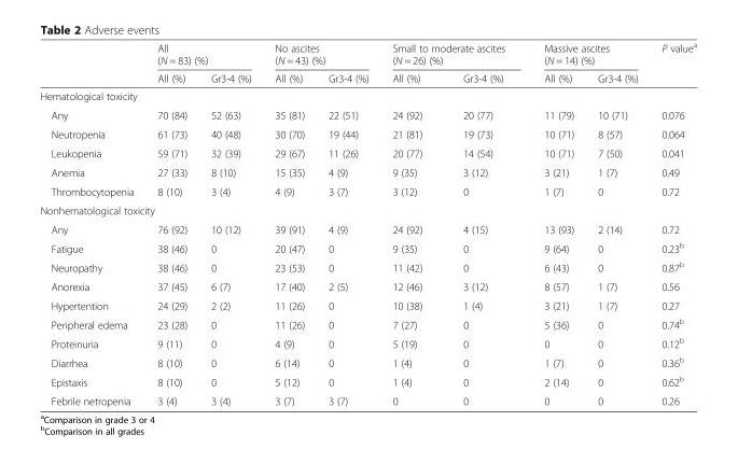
<table><thead><tr><td rowspan="2"></td><td colspan="2">All (N = 83) (%)</td><td colspan="2">No ascites (N = 43) (%)</td><td colspan="2">Small to moderate ascites (N = 26) (%)</td><td colspan="2">Massive ascites (N = 14) (%)</td><td rowspan="2">P value<sup>a</sup></td></tr><tr><td>All (%)</td><td>Gr3-4 (%)</td><td>All (%)</td><td>Gr3-4 (%)</td><td>All (%)</td><td>Gr3-4 (%)</td><td>All (%)</td><td>Gr3-4 (%)</td></tr></thead><tbody><tr><td colspan="10">Hematological toxicity</td></tr><tr><td>Any</td><td>70 (84)</td><td>52 (63)</td><td>35 (81)</td><td>22 (51)</td><td>24 (92)</td><td>20 (77)</td><td>11 (79)</td><td>10 (71)</td><td>0.076</td></tr><tr><td>Neutropenia</td><td>61 (73)</td><td>40 (48)</td><td>30 (70)</td><td>19 (44)</td><td>21 (81)</td><td>19 (73)</td><td>10 (71)</td><td>8 (57)</td><td>0.064</td></tr><tr><td>Leukopenia</td><td>59 (71)</td><td>32 (39)</td><td>29 (67)</td><td>11 (26)</td><td>20 (77)</td><td>14 (54)</td><td>10 (71)</td><td>7 (50)</td><td>0.041</td></tr><tr><td>Anemia</td><td>27 (33)</td><td>8 (10)</td><td>15 (35)</td><td>4 (9)</td><td>9 (35)</td><td>3 (12)</td><td>3 (21)</td><td>1 (7)</td><td>0.49</td></tr><tr><td>Thrombocytopenia</td><td>8 (10)</td><td>3 (4)</td><td>4 (9)</td><td>3 (7)</td><td>3 (12)</td><td>0</td><td>1 (7)</td><td>0</td><td>0.72</td></tr><tr><td colspan="10">Nonhematological toxicity</td></tr><tr><td>Any</td><td>76 (92)</td><td>10 (12)</td><td>39 (91)</td><td>4 (9)</td><td>24 (92)</td><td>4 (15)</td><td>13 (93)</td><td>2 (14)</td><td>0.72</td></tr><tr><td>Fatigue</td><td>38 (46)</td><td>0</td><td>20 (47)</td><td>0</td><td>9 (35)</td><td>0</td><td>9 (64)</td><td>0</td><td>0.23<sup>b</sup></td></tr><tr><td>Neuropathy</td><td>38 (46)</td><td>0</td><td>23 (53)</td><td>0</td><td>11 (42)</td><td>0</td><td>6 (43)</td><td>0</td><td>0.87<sup>b</sup></td></tr><tr><td>Anorexia</td><td>37 (45)</td><td>6 (7)</td><td>17 (40)</td><td>2 (5)</td><td>12 (46)</td><td>3 (12)</td><td>8 (57)</td><td>1 (7)</td><td>0.56</td></tr><tr><td>Hypertention</td><td>24 (29)</td><td>2 (2)</td><td>11 (26)</td><td>0</td><td>10 (38)</td><td>1 (4)</td><td>3 (21)</td><td>1 (7)</td><td>0.27</td></tr><tr><td>Peripheral edema</td><td>23 (28)</td><td>0</td><td>11 (26)</td><td>0</td><td>7 (27)</td><td>0</td><td>5 (36)</td><td>0</td><td>0.74<sup>b</sup></td></tr><tr><td>Proteinuria</td><td>9 (11)</td><td>0</td><td>4 (9)</td><td>0</td><td>5 (19)</td><td>0</td><td>0</td><td>0</td><td>0.12<sup>b</sup></td></tr><tr><td>Diarrhea</td><td>8 (10)</td><td>0</td><td>6 (14)</td><td>0</td><td>1 (4)</td><td>0</td><td>1 (7)</td><td>0</td><td>0.36<sup>b</sup></td></tr><tr><td>Epistaxis</td><td>8 (10)</td><td>0</td><td>5 (12)</td><td>0</td><td>1 (4)</td><td>0</td><td>2 (14)</td><td>0</td><td>0.62<sup>b</sup></td></tr><tr><td>Febrile netropenia</td><td>3 (4)</td><td>3 (4)</td><td>3 (7)</td><td>3 (7)</td><td>0</td><td>0</td><td>0</td><td>0</td><td>0.26</td></tr></tbody></table>